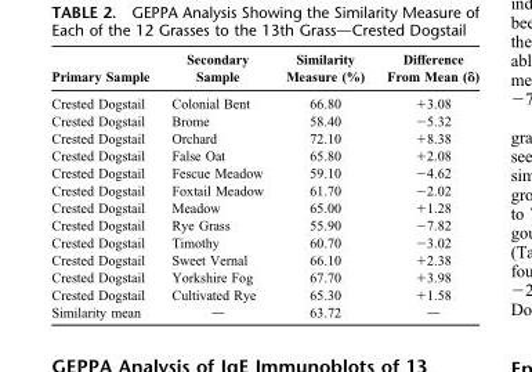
<table><thead><tr><td>Primary Sample</td><td>Secondary Sample</td><td>Similarity Measure (%)</td><td>Difference From Mean (δ)</td></tr></thead><tbody><tr><td>Crested Dogstail</td><td>Colonial Bent</td><td>66.80</td><td>+3.08</td></tr><tr><td>Crested Dogstail</td><td>Brome</td><td>58.40</td><td>25.32</td></tr><tr><td>Crested Dogstail</td><td>Orchard</td><td>72.10</td><td>+8.38</td></tr><tr><td>Crested Dogstail</td><td>False Oat</td><td>65.80</td><td>+2.08</td></tr><tr><td>Crested Dogstail</td><td>Fescue Meadow</td><td>59.10</td><td>24.62</td></tr><tr><td>Crested Dogstail</td><td>Foxtail Meadow</td><td>61.70</td><td>22.02</td></tr><tr><td>Crested Dogstail</td><td>Meadow</td><td>65.00</td><td>+1.28</td></tr><tr><td>Crested Dogstail</td><td>Rye Grass</td><td>55.90</td><td>27.82</td></tr><tr><td>Crested Dogstail</td><td>Timothy</td><td>60.70</td><td>23.02</td></tr><tr><td>Crested Dogstail</td><td>Sweet Vernal</td><td>66.10</td><td>+2.38</td></tr><tr><td>Crested Dogstail</td><td>Yorkshire Fog</td><td>67.70</td><td>+3.98</td></tr><tr><td>Crested Dogstail</td><td>Cultivated Rye</td><td>65.30</td><td>+1.58</td></tr><tr><td>Similarity mean</td><td>d</td><td>63.72</td><td>d</td></tr></tbody></table>